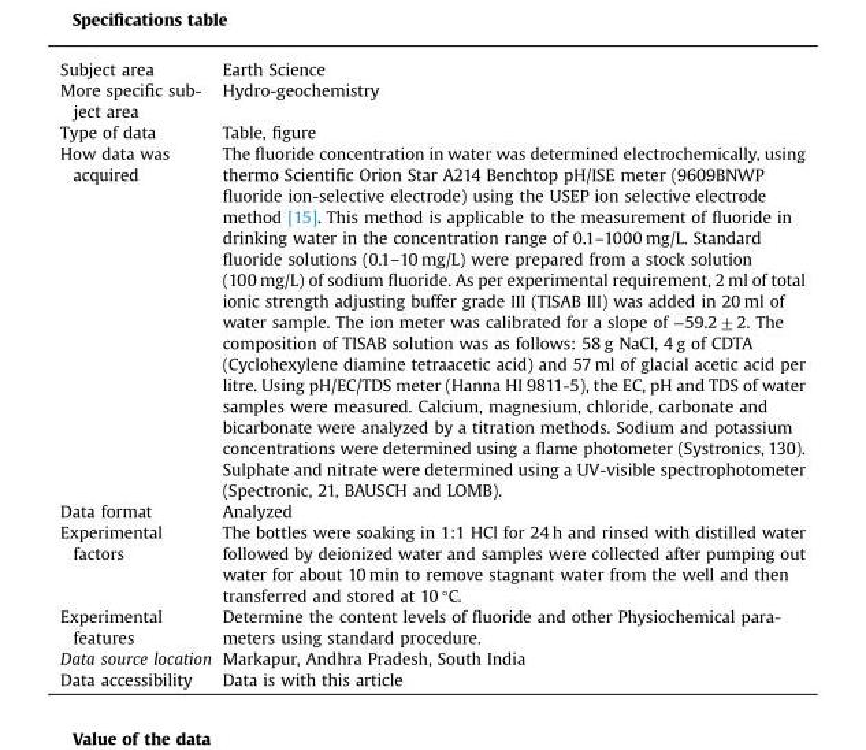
<table><tbody><tr><td>Subject area</td><td>Earth Science</td></tr><tr><td>More specific sub- ject area</td><td>Hydro-geochemistry</td></tr><tr><td>Type of data</td><td>Table, figure</td></tr><tr><td>How data was acquired</td><td>The fluoride concentration in water was determined electrochemically, using thermo Scientific Orion Star A214 Benchtop pH/ISE meter (9609BNWP fluoride ion-selective electrode) using the USEP ion selective electrode method [15]. This method is applicable to the measurement of fluoride in drinking water in the concentration range of 0.1–1000 mg/L. Standard fluoride solutions (0.1–10 mg/L) were prepared from a stock solution (100 mg/L) of sodium fluoride. As per experimental requirement, 2 ml of total ionic strength adjusting buffer grade III (TISAB III) was added in 20 ml of water sample. The ion meter was calibrated for a slope of −59.2±2. The composition of TISAB solution was as follows: 58 g NaCl, 4 g of CDTA (Cyclohexylene diamine tetraacetic acid) and 57 ml of glacial acetic acid per litre. Using pH/EC/TDS meter (Hanna HI 9811-5), the EC, pH and TDS of water samples were measured. Calcium, magnesium, chloride, carbonate and bicarbonate were analyzed by a titration methods. Sodium and potassium concentrations were determined using a flame photometer (Systronics, 130). Sulphate and nitrate were determined using a UV-visible spectrophotometer (Spectronic, 21, BAUSCH and LOMB).</td></tr><tr><td>Data format</td><td>Analyzed</td></tr><tr><td>Experimental factors</td><td>The bottles were soaking in 1:1 HCl for 24 h and rinsed with distilled water followed by deionized water and samples were collected after pumping out water for about 10 min to remove stagnant water from the well and then transferred and stored at 10 °C.</td></tr><tr><td>Experimental features</td><td>Determine the content levels of fluoride and other Physiochemical para- meters using standard procedure.</td></tr><tr><td>Data source location</td><td>Markapur, Andhra Pradesh, South India</td></tr><tr><td>Data accessibility</td><td>Data is with this article</td></tr></tbody></table>